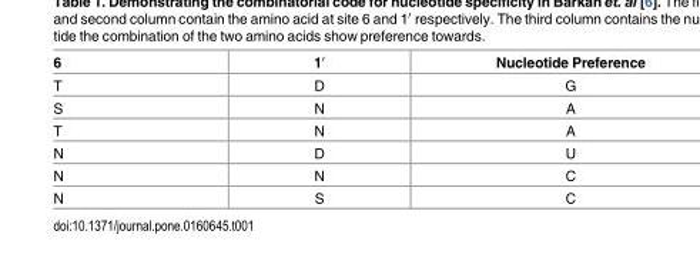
<table><thead><tr><td>6</td><td>1′</td><td>Nucleotide Preference</td></tr></thead><tbody><tr><td>T</td><td>D</td><td>G</td></tr><tr><td>S</td><td>N</td><td>A</td></tr><tr><td>T</td><td>N</td><td>A</td></tr><tr><td>N</td><td>D</td><td>U</td></tr><tr><td>N</td><td>N</td><td>C</td></tr><tr><td>N</td><td>S</td><td>C</td></tr></tbody></table>